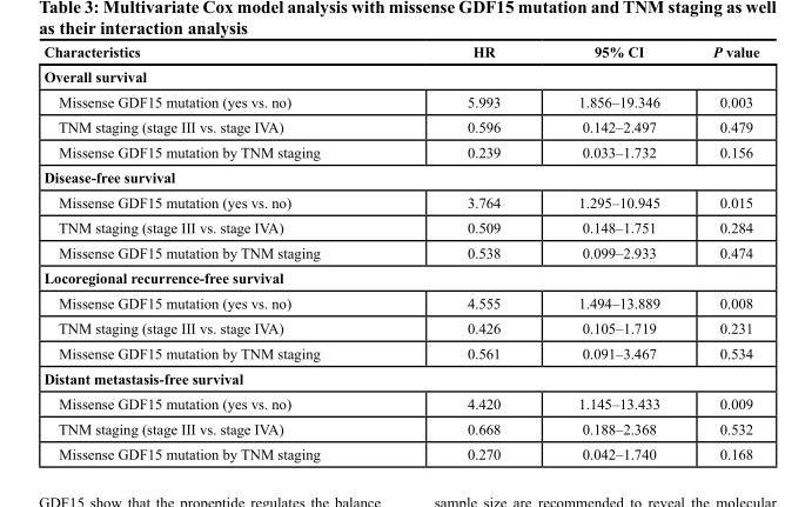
<table><thead><tr><td>Characteristics</td><td>HR</td><td>95% CI</td><td>P value</td></tr></thead><tbody><tr><td colspan="4">Overall survival</td></tr><tr><td>Missense GDF15 mutation (yes vs. no)</td><td>5.993</td><td>1.856–19.346</td><td>0.003</td></tr><tr><td>TNM staging (stage III vs. stage IVA)</td><td>0.596</td><td>0.142–2.497</td><td>0.479</td></tr><tr><td>Missense GDF15 mutation by TNM staging</td><td>0.239</td><td>0.033–1.732</td><td>0.156</td></tr><tr><td colspan="4">Disease-free survival</td></tr><tr><td>Missense GDF15 mutation (yes vs. no)</td><td>3.764</td><td>1.295–10.945</td><td>0.015</td></tr><tr><td>TNM staging (stage III vs. stage IVA)</td><td>0.509</td><td>0.148–1.751</td><td>0.284</td></tr><tr><td>Missense GDF15 mutation by TNM staging</td><td>0.538</td><td>0.099–2.933</td><td>0.474</td></tr><tr><td colspan="4">Locoregional recurrence-free survival</td></tr><tr><td>Missense GDF15 mutation (yes vs. no)</td><td>4.555</td><td>1.494–13.889</td><td>0.008</td></tr><tr><td>TNM staging (stage III vs. stage IVA)</td><td>0.426</td><td>0.105–1.719</td><td>0.231</td></tr><tr><td>Missense GDF15 mutation by TNM staging</td><td>0.561</td><td>0.091–3.467</td><td>0.534</td></tr><tr><td colspan="4">Distant metastasis-free survival</td></tr><tr><td>Missense GDF15 mutation (yes vs. no)</td><td>4.420</td><td>1.145–13.433</td><td>0.009</td></tr><tr><td>TNM staging (stage III vs. stage IVA)</td><td>0.668</td><td>0.188–2.368</td><td>0.532</td></tr><tr><td>Missense GDF15 mutation by TNM staging</td><td>0.270</td><td>0.042–1.740</td><td>0.168</td></tr></tbody></table>